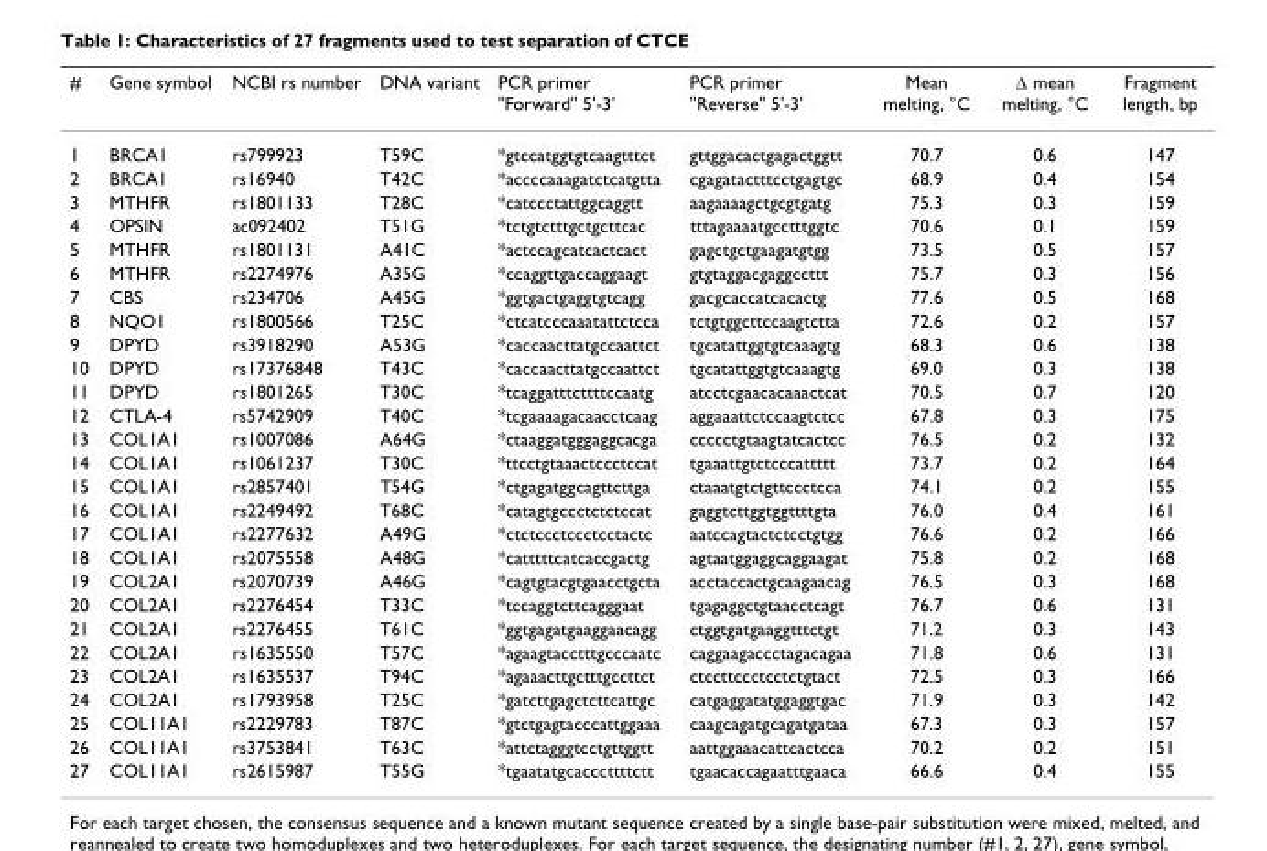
<table><thead><tr><td>#</td><td>Gene symbol</td><td>NCBI rs number</td><td>DNA variant</td><td>PCR primer &quot;Forward&quot; 5&#x27;-3&#x27;</td><td>PCR primer &quot;Reverse&quot; 5&#x27;-3&#x27;</td><td>Mean melting, °C</td><td>Δ mean melting, °C</td><td>Fragment length, bp</td></tr></thead><tbody><tr><td>1</td><td>BRCA1</td><td>rs799923</td><td>T59C</td><td>*gtccatggtgtcaagtttct</td><td>gttggacactgagactggtt</td><td>70.7</td><td>0.6</td><td>147</td></tr><tr><td>2</td><td>BRCA1</td><td>rs16940</td><td>T42C</td><td>*accccaaagatctcatgtta</td><td>cgagatactttcctgagtgc</td><td>68.9</td><td>0.4</td><td>154</td></tr><tr><td>3</td><td>MTHFR</td><td>rs1801133</td><td>T28C</td><td>*catccctattggcaggtt</td><td>aagaaaagctgcgtgatg</td><td>75.3</td><td>0.3</td><td>159</td></tr><tr><td>4</td><td>OPSIN</td><td>ac092402</td><td>T51G</td><td>*tctgtctttgctgcttcac</td><td>tttagaaaatgcctttggtc</td><td>70.6</td><td>0.1</td><td>159</td></tr><tr><td>5</td><td>MTHFR</td><td>rs1801131</td><td>A41C</td><td>*actccagcatcactcact</td><td>gagctgctgaagatgtgg</td><td>73.5</td><td>0.5</td><td>157</td></tr><tr><td>6</td><td>MTHFR</td><td>rs2274976</td><td>A35G</td><td>*ccaggttgaccaggaagt</td><td>gtgtaggacgaggccttt</td><td>75.7</td><td>0.3</td><td>156</td></tr><tr><td>7</td><td>CBS</td><td>rs234706</td><td>A45G</td><td>*ggtgactgaggtgtcagg</td><td>gacgcaccatcacactg</td><td>77.6</td><td>0.5</td><td>168</td></tr><tr><td>8</td><td>NQO1</td><td>rs1800566</td><td>T25C</td><td>*ctcatcccaaatattctcca</td><td>tctgtggcttccaagtctta</td><td>72.6</td><td>0.2</td><td>157</td></tr><tr><td>9</td><td>DPYD</td><td>rs3918290</td><td>A53G</td><td>*caccaacttatgccaattct</td><td>tgcatattggtgtcaaagtg</td><td>68.3</td><td>0.6</td><td>138</td></tr><tr><td>10</td><td>DPYD</td><td>rs17376848</td><td>T43C</td><td>*caccaacttatgccaattct</td><td>tgcatattggtgtcaaagtg</td><td>69.0</td><td>0.3</td><td>138</td></tr><tr><td>11</td><td>DPYD</td><td>rs1801265</td><td>T30C</td><td>*tcaggatttcttttccaatg</td><td>atcctcgaacacaaactcat</td><td>70.5</td><td>0.7</td><td>120</td></tr><tr><td>12</td><td>CTLA-4</td><td>rs5742909</td><td>T40C</td><td>*tcgaaaagacaacctcaag</td><td>aggaaattctccaagtctcc</td><td>67.8</td><td>0.3</td><td>175</td></tr><tr><td>13</td><td>COL1A1</td><td>rs1007086</td><td>A64G</td><td>*ctaaggatgggaggcacga</td><td>ccccctgtaagtatcactcc</td><td>76.5</td><td>0.2</td><td>132</td></tr><tr><td>14</td><td>COL1A1</td><td>rs1061237</td><td>T30C</td><td>*ttcctgtaaactccctccat</td><td>tgaaattgtctcccattttt</td><td>73.7</td><td>0.2</td><td>164</td></tr><tr><td>15</td><td>COL1A1</td><td>rs2857401</td><td>T54G</td><td>*ctgagatggcagttcttga</td><td>ctaaatgtctgttccctcca</td><td>74.1</td><td>0.2</td><td>155</td></tr><tr><td>16</td><td>COL1A1</td><td>rs2249492</td><td>T68C</td><td>*catagtgccctctctccat</td><td>gaggtcttggtggttttgta</td><td>76.0</td><td>0.4</td><td>161</td></tr><tr><td>17</td><td>COL1A1</td><td>rs2277632</td><td>A49G</td><td>*ctctccctccctcctactc</td><td>aatccagtactctcctgtgg</td><td>76.6</td><td>0.2</td><td>166</td></tr><tr><td>18</td><td>COL1A1</td><td>rs2075558</td><td>A48G</td><td>*catttttcatcaccgactg</td><td>agtaatggaggcaggaagat</td><td>75.8</td><td>0.2</td><td>168</td></tr><tr><td>19</td><td>COL2A1</td><td>rs2070739</td><td>A46G</td><td>*cagtgtacgtgaacctgcta</td><td>acctaccactgcaagaacag</td><td>76.5</td><td>0.3</td><td>168</td></tr><tr><td>20</td><td>COL2A1</td><td>rs2276454</td><td>T33C</td><td>*tccaggtcttcagggaat</td><td>tgagaggctgtaacctcagt</td><td>76.7</td><td>0.6</td><td>131</td></tr><tr><td>21</td><td>COL2A1</td><td>rs2276455</td><td>T61C</td><td>*ggtgagatgaaggaacagg</td><td>ctggtgatgaaggtttctgt</td><td>71.2</td><td>0.3</td><td>143</td></tr><tr><td>22</td><td>COL2A1</td><td>rs1635550</td><td>T57C</td><td>*agaagtacctttgcccaatc</td><td>caggaagaccctagacagaa</td><td>71.8</td><td>0.6</td><td>131</td></tr><tr><td>23</td><td>COL2A1</td><td>rs1635537</td><td>T94C</td><td>*agaaacttgctttgccttct</td><td>ctccttccctcctctgtact</td><td>72.5</td><td>0.3</td><td>166</td></tr><tr><td>24</td><td>COL2A1</td><td>rs1793958</td><td>T25C</td><td>*gatcttgagctcttcattgc</td><td>catgaggatatggaggtgac</td><td>71.9</td><td>0.3</td><td>142</td></tr><tr><td>25</td><td>COL11A1</td><td>rs2229783</td><td>T87C</td><td>*gtctgagtacccattggaaa</td><td>caagcagatgcagatgataa</td><td>67.3</td><td>0.3</td><td>157</td></tr><tr><td>26</td><td>COL11A1</td><td>rs3753841</td><td>T63C</td><td>*attctagggtcctgttggtt</td><td>aattggaaacattcactcca</td><td>70.2</td><td>0.2</td><td>151</td></tr><tr><td>27</td><td>COL11A1</td><td>rs2615987</td><td>T55G</td><td>*tgaatatgcacccttttctt</td><td>tgaacaccagaatttgaaca</td><td>66.6</td><td>0.4</td><td>155</td></tr></tbody></table>